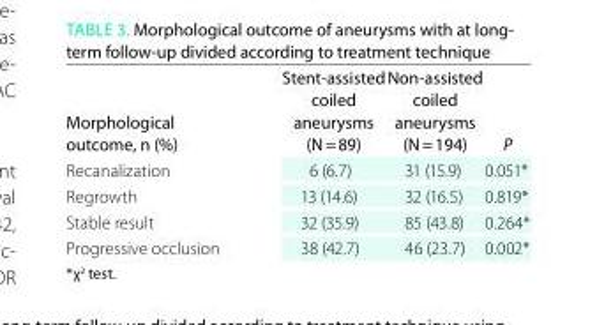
<table><thead><tr><td>Morphological outcome, n (%)</td><td>stent-assisted coiled aneurysms (N = 89)</td><td>Non-assisted coiled aneurysms (N = 194)</td><td>P</td></tr></thead><tbody><tr><td>Recanalization</td><td>6 (6.7)</td><td>31 (15.9)</td><td>0.051*</td></tr><tr><td>Regrowth</td><td>13 (14.6)</td><td>32 (16.5)</td><td>0.819*</td></tr><tr><td>Stable result</td><td>32 (35.9)</td><td>85 (43.8)</td><td>0.264*</td></tr><tr><td>Progressive occlusion</td><td>38 (42.7)</td><td>46 (23.7)</td><td>0.002*</td></tr></tbody></table>